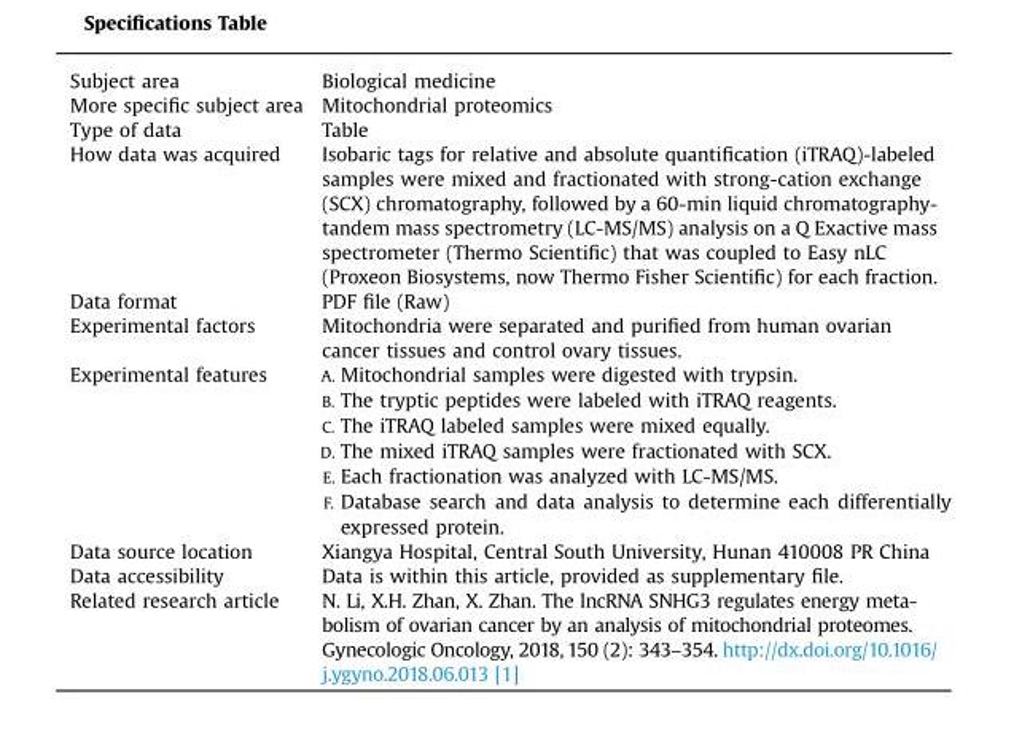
<table><tbody><tr><td>Subject area</td><td>Biological medicine</td></tr><tr><td>More specific subject area</td><td>Mitochondrial proteomics</td></tr><tr><td>Type of data</td><td>Table</td></tr><tr><td>How data was acquired</td><td>Isobaric tags for relative and absolute quantification (iTRAQ)-labeled samples were mixed and fractionated with strong-cation exchange (SCX) chromatography, followed by a 60-min liquid chromatography- tandem mass spectrometry (LC-MS/MS) analysis on a Q Exactive mass spectrometer (Thermo Scientific) that was coupled to Easy nLC (Proxeon Biosystems, now Thermo Fisher Scientific) for each fraction.</td></tr><tr><td>Data format</td><td>PDF file (Raw)</td></tr><tr><td>Experimental factors</td><td>Mitochondria were separated and purified from human ovarian cancer tissues and control ovary tissues.</td></tr><tr><td>Experimental features</td><td>A. Mitochondrial samples were digested with trypsin. B. The tryptic peptides were labeled with iTRAQ reagents. C. The iTRAQ labeled samples were mixed equally. D. The mixed iTRAQ samples were fractionated with SCX. E. Each fractionation was analyzed with LC-MS/MS. F. Database search and data analysis to determine each differentially expressed protein.</td></tr><tr><td>Data source location</td><td>Xiangya Hospital, Central South University, Hunan 410008 PR China</td></tr><tr><td>Data accessibility</td><td>Data is within this article, provided as supplementary file.</td></tr><tr><td>Related research article</td><td>N. Li, X.H. Zhan, X. Zhan. The lncRNA SNHG3 regulates energy meta- bolism of ovarian cancer by an analysis of mitochondrial proteomes. Gynecologic Oncology, 2018, 150 (2): 343–354. http://dx.doi.org/10.1016/ j.ygyno.2018.06.013 [1]</td></tr></tbody></table>